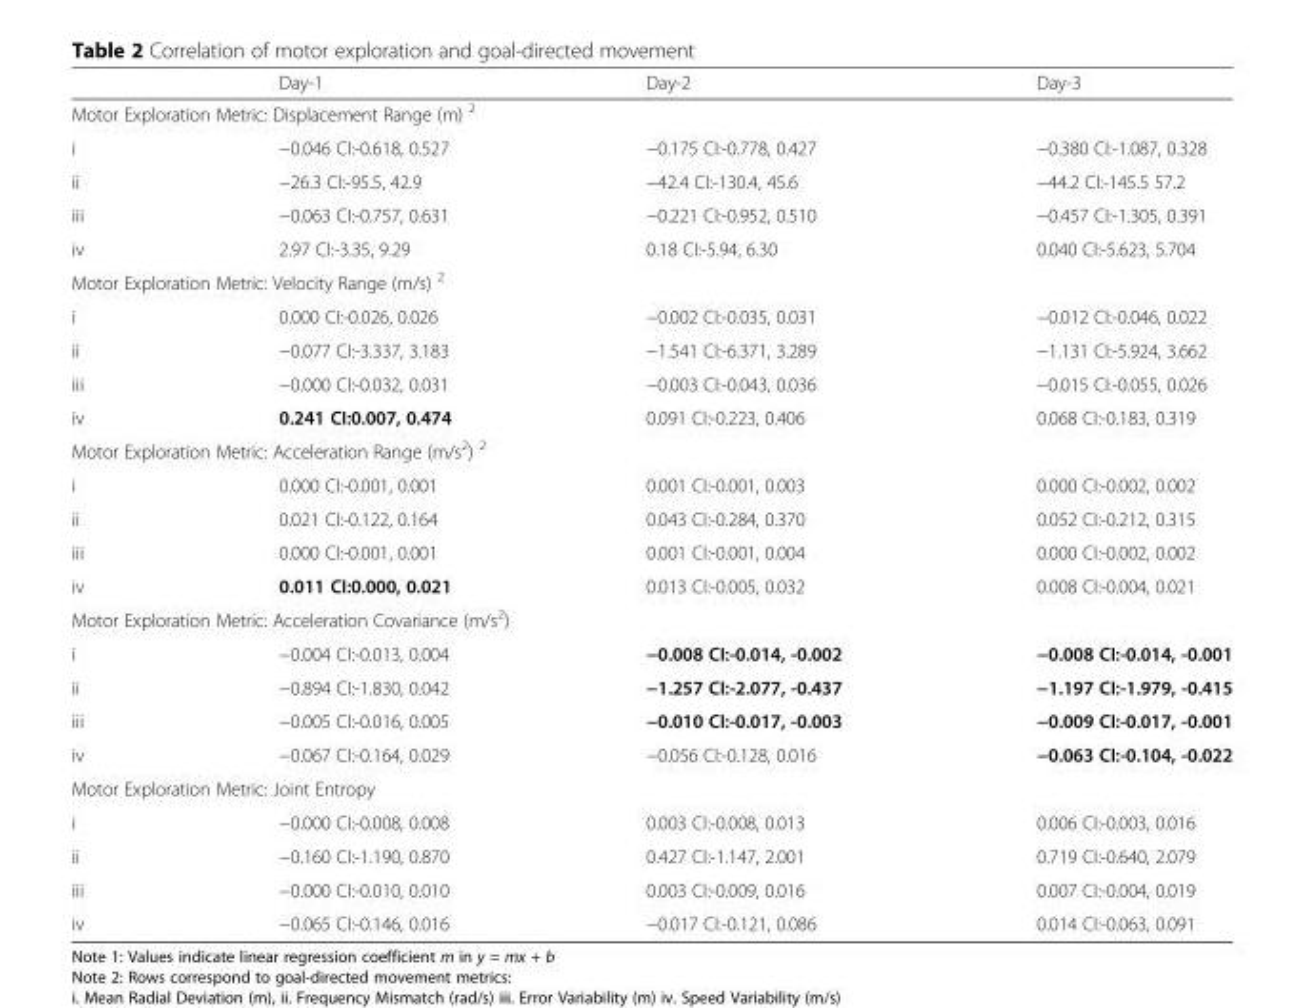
<table><thead><tr><td></td><td>Day-1</td><td>Day-2</td><td>Day-3</td></tr></thead><tbody><tr><td colspan="4">Motor Exploration Metric: Displacement Range (m) <sup>2</sup></td></tr><tr><td>i</td><td>−0.046 CI:-0.618, 0.527</td><td>−0.175 CI:-0.778, 0.427</td><td>−0.380 CI:-1.087, 0.328</td></tr><tr><td>ii</td><td>−26.3 CI:-95.5, 42.9</td><td>−42.4 CI:-130.4, 45.6</td><td>−44.2 CI:-145.5 57.2</td></tr><tr><td>iii</td><td>−0.063 CI:-0.757, 0.631</td><td>−0.221 CI:-0.952, 0.510</td><td>−0.457 CI:-1.305, 0.391</td></tr><tr><td>iv</td><td>2.97 CI:-3.35, 9.29</td><td>0.18 CI:-5.94, 6.30</td><td>0.040 CI:-5.623, 5.704</td></tr><tr><td colspan="4">Motor Exploration Metric: Velocity Range (m/s) <sup>2</sup></td></tr><tr><td>i</td><td>0.000 CI:-0.026, 0.026</td><td>−0.002 CI:-0.035, 0.031</td><td>−0.012 CI:-0.046, 0.022</td></tr><tr><td>ii</td><td>−0.077 CI:-3.337, 3.183</td><td>−1.541 CI:-6.371, 3.289</td><td>−1.131 CI:-5.924, 3.662</td></tr><tr><td>iii</td><td>−0.000 CI:-0.032, 0.031</td><td>−0.003 CI:-0.043, 0.036</td><td>−0.015 CI:-0.055, 0.026</td></tr><tr><td>iv</td><td>0.241 CI:0.007, 0.474</td><td>0.091 CI:-0.223, 0.406</td><td>0.068 CI:-0.183, 0.319</td></tr><tr><td colspan="4">Motor Exploration Metric: Acceleration Range (m/s<sup>2</sup>) <sup>2</sup></td></tr><tr><td>i</td><td>0.000 CI:-0.001, 0.001</td><td>0.001 CI:-0.001, 0.003</td><td>0.000 CI:-0.002, 0.002</td></tr><tr><td>ii</td><td>0.021 CI:-0.122, 0.164</td><td>0.043 CI:-0.284, 0.370</td><td>0.052 CI:-0.212, 0.315</td></tr><tr><td>iii</td><td>0.000 CI:-0.001, 0.001</td><td>0.001 CI:-0.001, 0.004</td><td>0.000 CI:-0.002, 0.002</td></tr><tr><td>iv</td><td>0.011 CI:0.000, 0.021</td><td>0.013 CI:-0.005, 0.032</td><td>0.008 CI:-0.004, 0.021</td></tr><tr><td colspan="4">Motor Exploration Metric: Acceleration Covariance (m/s<sup>2</sup>)</td></tr><tr><td>i</td><td>−0.004 CI:-0.013, 0.004</td><td>−0.008 CI:-0.014, -0.002</td><td>−0.008 CI:-0.014, -0.001</td></tr><tr><td>ii</td><td>−0.894 CI:-1.830, 0.042</td><td>−1.257 CI:-2.077, -0.437</td><td>−1.197 CI:-1.979, -0.415</td></tr><tr><td>iii</td><td>−0.005 CI:-0.016, 0.005</td><td>−0.010 CI:-0.017, -0.003</td><td>−0.009 CI:-0.017, -0.001</td></tr><tr><td>iv</td><td>−0.067 CI:-0.164, 0.029</td><td>−0.056 CI:-0.128, 0.016</td><td>−0.063 CI:-0.104, -0.022</td></tr><tr><td colspan="4">Motor Exploration Metric: Joint Entropy</td></tr><tr><td>i</td><td>−0.000 CI:-0.008, 0.008</td><td>0.003 CI:-0.008, 0.013</td><td>0.006 CI:-0.003, 0.016</td></tr><tr><td>ii</td><td>−0.160 CI:-1.190, 0.870</td><td>0.427 CI:-1.147, 2.001</td><td>0.719 CI:-0.640, 2.079</td></tr><tr><td>iii</td><td>−0.000 CI:-0.010, 0.010</td><td>0.003 CI:-0.009, 0.016</td><td>0.007 CI:-0.004, 0.019</td></tr><tr><td>iv</td><td>−0.065 CI:-0.146, 0.016</td><td>−0.017 CI:-0.121, 0.086</td><td>0.014 CI:-0.063, 0.091</td></tr></tbody></table>